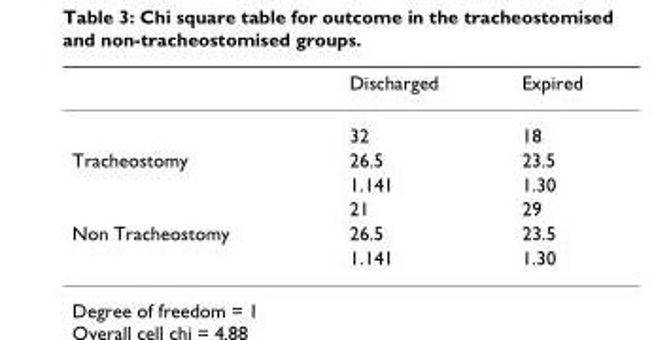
<table><thead><tr><td></td><td>Discharged</td><td>Expired</td></tr></thead><tbody><tr><td></td><td>32</td><td>18</td></tr><tr><td rowspan="3">Tracheostomy</td><td>26.5</td><td>23.5</td></tr><tr><td>1.141</td><td>1.30</td></tr><tr><td>21</td><td>29</td></tr><tr><td rowspan="2">Non Tracheostomy</td><td>26.5</td><td>23.5</td></tr><tr><td>1.141</td><td>1.30</td></tr></tbody></table>